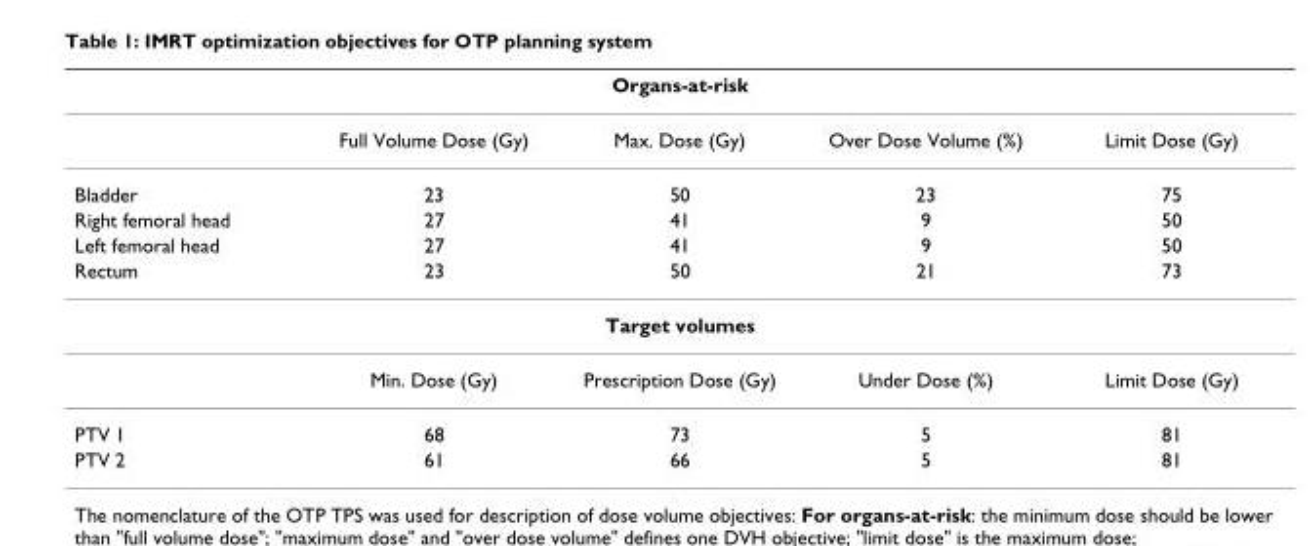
<table><thead><tr><td colspan="5">Organs-at-risk</td></tr><tr><td></td><td>Full Volume Dose (Gy)</td><td>Max. Dose (Gy)</td><td>Over Dose Volume (%)</td><td>Limit Dose (Gy)</td></tr></thead><tbody><tr><td>Bladder</td><td>23</td><td>50</td><td>23</td><td>75</td></tr><tr><td>Right femoral head</td><td>27</td><td>41</td><td>9</td><td>50</td></tr><tr><td>Left femoral head</td><td>27</td><td>41</td><td>9</td><td>50</td></tr><tr><td>Rectum</td><td>23</td><td>50</td><td>21</td><td>73</td></tr><tr><td colspan="5">Target volumes</td></tr><tr><td></td><td>Min. Dose (Gy)</td><td>Prescription Dose (Gy)</td><td>Under Dose (%)</td><td>Limit Dose (Gy)</td></tr><tr><td>PTV 1</td><td>68</td><td>73</td><td>5</td><td>81</td></tr><tr><td>PTV 2</td><td>61</td><td>66</td><td>5</td><td>81</td></tr></tbody></table>